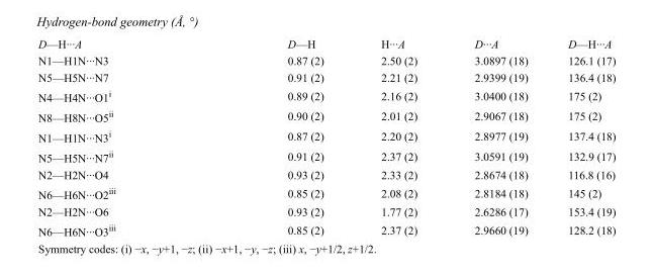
<table><tbody><tr><td>D—H···A</td><td>D—H</td><td>H···A</td><td>D···A</td><td>D—H···A</td></tr><tr><td>N1—H1N···N3</td><td>0.87 (2)</td><td>2.50 (2)</td><td>3.0897 (18)</td><td>126.1 (17)</td></tr><tr><td>N5—H5N···N7</td><td>0.91 (2)</td><td>2.21 (2)</td><td>2.9399 (19)</td><td>136.4 (18)</td></tr><tr><td>N4—H4N···O1<sup>i</sup></td><td>0.89 (2)</td><td>2.16 (2)</td><td>3.0400 (18)</td><td>175 (2)</td></tr><tr><td>N8—H8N···O5<sup>ii</sup></td><td>0.90 (2)</td><td>2.01 (2)</td><td>2.9067 (18)</td><td>175 (2)</td></tr><tr><td>N1—H1N···N3<sup>i</sup></td><td>0.87 (2)</td><td>2.20 (2)</td><td>2.8977 (19)</td><td>137.4 (18)</td></tr><tr><td>N5—H5N···N7<sup>ii</sup></td><td>0.91 (2)</td><td>2.37 (2)</td><td>3.0591 (19)</td><td>132.9 (17)</td></tr><tr><td>N2—H2N···O4</td><td>0.93 (2)</td><td>2.33 (2)</td><td>2.8674 (18)</td><td>116.8 (16)</td></tr><tr><td>N6—H6N···O2<sup>iii</sup></td><td>0.85 (2)</td><td>2.08 (2)</td><td>2.8184 (18)</td><td>145 (2)</td></tr><tr><td>N2—H2N···O6</td><td>0.93 (2)</td><td>1.77 (2)</td><td>2.6286 (17)</td><td>153.4 (19)</td></tr><tr><td>N6—H6N···O3<sup>iii</sup></td><td>0.85 (2)</td><td>2.37 (2)</td><td>2.9660 (19)</td><td>128.2 (18)</td></tr></tbody></table>